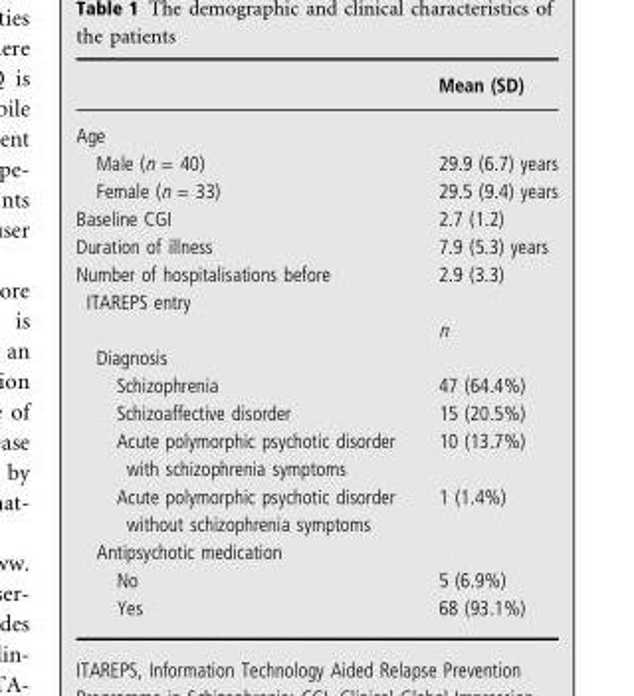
<table><thead><tr><td></td><td>Mean (SD)</td></tr></thead><tbody><tr><td colspan="2">Age</td></tr><tr><td>Male (n = 40)</td><td>29.9 (6.7) years</td></tr><tr><td>Female (n = 33)</td><td>29.5 (9.4) years</td></tr><tr><td>Baseline CGI</td><td>2.7 (1.2)</td></tr><tr><td>Duration of illness</td><td>7.9 (5.3) years</td></tr><tr><td rowspan="2">Number of hospitalisations before ITAREPS entry</td><td>2.9 (3.3)</td></tr><tr><td>n</td></tr><tr><td colspan="2">Diagnosis</td></tr><tr><td>Schizophrenia</td><td>47 (64.4%)</td></tr><tr><td>Schizoaffective disorder</td><td>15 (20.5%)</td></tr><tr><td>Acute polymorphic psychotic disorder with schizophrenia symptoms</td><td>10 (13.7%)</td></tr><tr><td>Acute polymorphic psychotic disorder without schizophrenia symptoms</td><td>1 (1.4%)</td></tr><tr><td colspan="2">Antipsychotic medication</td></tr><tr><td>No</td><td>5 (6.9%)</td></tr><tr><td>Yes</td><td>68 (93.1%)</td></tr></tbody></table>